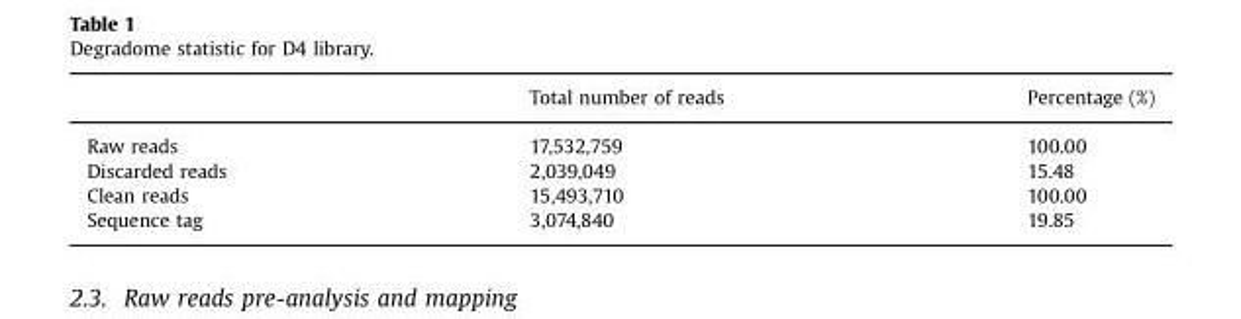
<table><thead><tr><td></td><td>Total number of reads</td><td>Percentage (%)</td></tr></thead><tbody><tr><td>Raw reads</td><td>17,532,759</td><td>100.00</td></tr><tr><td>Discarded reads</td><td>2,039,049</td><td>15.48</td></tr><tr><td>Clean reads</td><td>15,493,710</td><td>100.00</td></tr><tr><td>Sequence tag</td><td>3,074,840</td><td>19.85</td></tr></tbody></table>